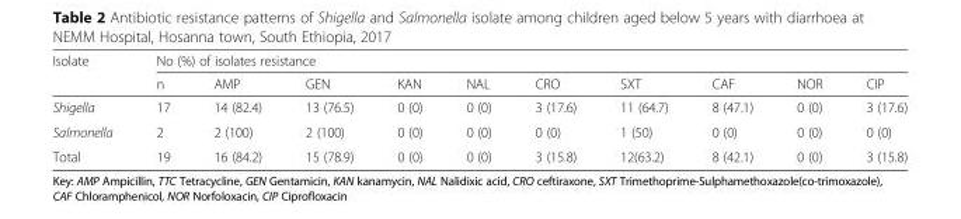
<table><thead><tr><td rowspan="2">Isolate</td><td colspan="10">No (%) of isolates resistance</td></tr><tr><td>n</td><td>AMP</td><td>GEN</td><td>KAN</td><td>NAL</td><td>CRO</td><td>SXT</td><td>CAF</td><td>NOR</td><td>CIP</td></tr></thead><tbody><tr><td>Shigella</td><td>17</td><td>14 (82.4)</td><td>13 (76.5)</td><td>0 (0)</td><td>0 (0)</td><td>3 (17.6)</td><td>11 (64.7)</td><td>8 (47.1)</td><td>0 (0)</td><td>3 (17.6)</td></tr><tr><td>Salmonella</td><td>2</td><td>2 (100)</td><td>2 (100)</td><td>0 (0)</td><td>0 (0)</td><td>0 (0)</td><td>1 (50)</td><td>0 (0)</td><td>0 (0)</td><td>0 (0)</td></tr><tr><td>Total</td><td>19</td><td>16 (84.2)</td><td>15 (78.9)</td><td>0 (0)</td><td>0 (0)</td><td>3 (15.8)</td><td>12(63.2)</td><td>8 (42.1)</td><td>0 (0)</td><td>3 (15.8)</td></tr></tbody></table>